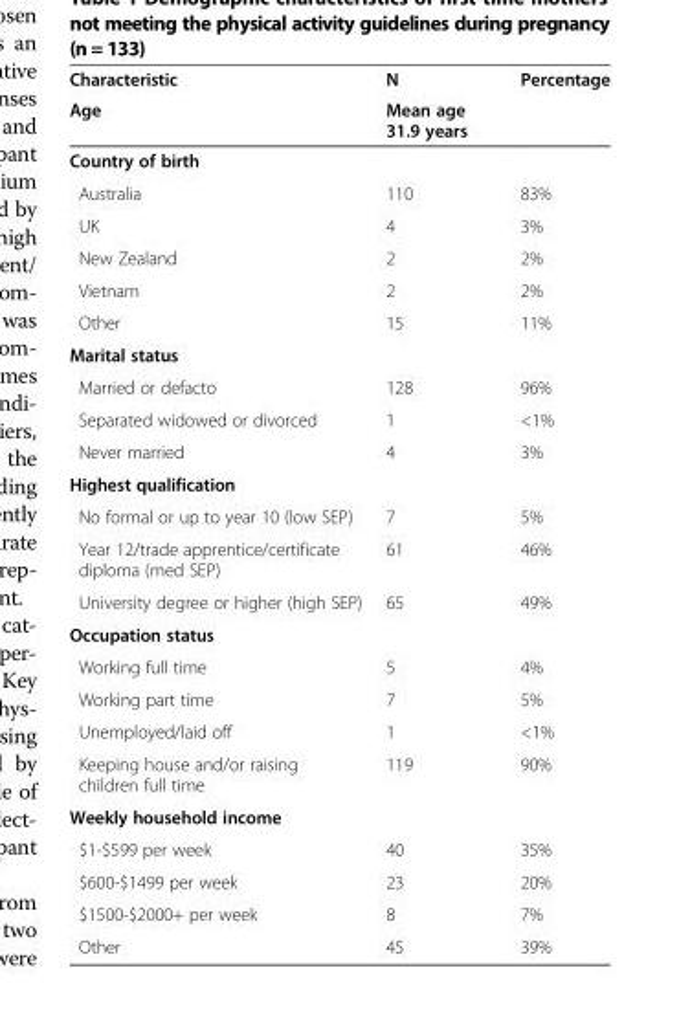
<table><thead><tr><td rowspan="2">Characteristic Age</td><td rowspan="2">N Mean age 31.9 years</td><td rowspan="2">Percentage</td></tr><tr></tr></thead><tbody><tr><td colspan="3">Country of birth</td></tr><tr><td>Australia</td><td>110</td><td>83%</td></tr><tr><td>UK</td><td>4</td><td>3%</td></tr><tr><td>New Zealand</td><td>2</td><td>2%</td></tr><tr><td>Vietnam</td><td>2</td><td>2%</td></tr><tr><td>Other</td><td>15</td><td>11%</td></tr><tr><td colspan="3">Marital status</td></tr><tr><td>Married or defacto</td><td>128</td><td>96%</td></tr><tr><td>Separated widowed or divorced</td><td>1</td><td>&lt;1%</td></tr><tr><td>Never married</td><td>4</td><td>3%</td></tr><tr><td colspan="3">Highest qualification</td></tr><tr><td>No formal or up to year 10 (low SEP)</td><td>7</td><td>5%</td></tr><tr><td>Year 12/trade apprentice/certificate diploma (med SEP)</td><td>61</td><td>46%</td></tr><tr><td>University degree or higher (high SEP)</td><td>65</td><td>49%</td></tr><tr><td colspan="3">Occupation status</td></tr><tr><td>Working full time</td><td>5</td><td>4%</td></tr><tr><td>Working part time</td><td>7</td><td>5%</td></tr><tr><td>Unemployed/laid off</td><td>1</td><td>&lt;1%</td></tr><tr><td>Keeping house and/or raising children full time</td><td>119</td><td>90%</td></tr><tr><td colspan="3">Weekly household income</td></tr><tr><td>$1-$599 per week</td><td>40</td><td>35%</td></tr><tr><td>$600-$1499 per week</td><td>23</td><td>20%</td></tr><tr><td>$1500-$2000+ per week</td><td>8</td><td>7%</td></tr><tr><td>Other</td><td>45</td><td>39%</td></tr></tbody></table>